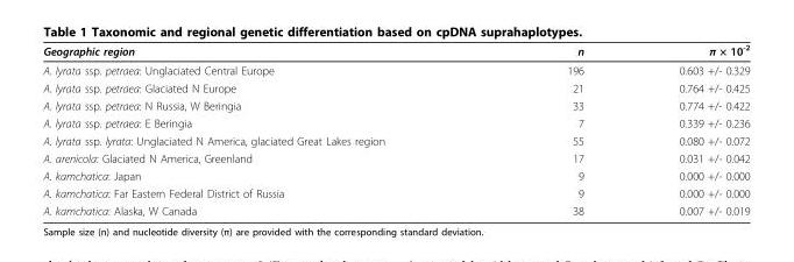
<table><thead><tr><td>Geographic region</td><td>n</td><td>π × 10<sup>-2</sup></td></tr></thead><tbody><tr><td>A. lyrata ssp. petraea: Unglaciated Central Europe</td><td>196</td><td>0.603 +/- 0.329</td></tr><tr><td>A. lyrata ssp. petraea: Glaciated N Europe</td><td>21</td><td>0.764 +/- 0.425</td></tr><tr><td>A. lyrata ssp. petraea: N Russia, W Beringia</td><td>33</td><td>0.774 +/- 0.422</td></tr><tr><td>A. lyrata ssp. petraea: E Beringia</td><td>7</td><td>0.339 +/- 0.236</td></tr><tr><td>A. lyrata ssp. lyrata: Unglaciated N America, glaciated Great Lakes region</td><td>55</td><td>0.080 +/- 0.072</td></tr><tr><td>A. arenicola: Glaciated N America, Greenland</td><td>17</td><td>0.031 +/- 0.042</td></tr><tr><td>A. kamchatica: Japan</td><td>9</td><td>0.000 +/- 0.000</td></tr><tr><td>A. kamchatica: Far Eastern Federal District of Russia</td><td>9</td><td>0.000 +/- 0.000</td></tr><tr><td>A. kamchatica: Alaska, W Canada</td><td>38</td><td>0.007 +/- 0.019</td></tr></tbody></table>